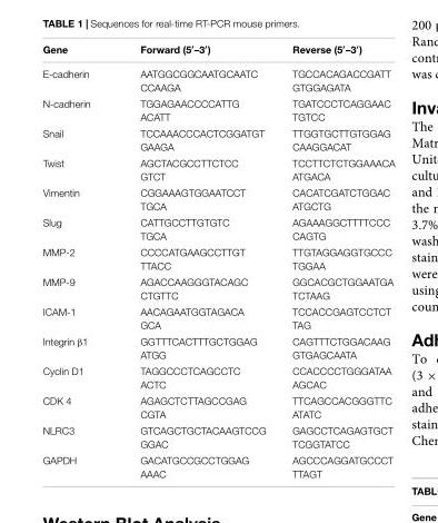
<table><thead><tr><td>Gene</td><td>Forward (5′–3′)</td><td>Reverse (5′–3′)</td></tr></thead><tbody><tr><td>E-cadherin</td><td>AATGGCGGCAATGCAATC CCAAGA</td><td>TGCCACAGACCGATT GTGGAGATA</td></tr><tr><td>N-cadherin</td><td>TGGAGAACCCCATTG ACATT</td><td>TGATCCCTCAGGAAC TGTCC</td></tr><tr><td>Snail</td><td>TCCAAACCCACTCGGATGT GAAGA</td><td>TTGGTGCTTGTGGAG CAAGGACAT</td></tr><tr><td>Twist</td><td>AGCTACGCCTTCTCC GTCT</td><td>TCCTTCTCTGGAAACA ATGACA</td></tr><tr><td>Vimentin</td><td>CGGAAAGTGGAATCCT TGCA</td><td>CACATCGATCTGGAC ATGCTG</td></tr><tr><td>Slug</td><td>CATTGCCTTGTGTC TGCA</td><td>AGAAAGGCTTTTCCC CAGTG</td></tr><tr><td>MMP-2</td><td>CCCCATGAAGCCTTGT TTACC</td><td>TTGTAGGAGGTGCCC TGGAA</td></tr><tr><td>MMP-9</td><td>AGACCAAGGGTACAGC CTGTTC</td><td>GGCACGCTGGAATGA TCTAAG</td></tr><tr><td>ICAM-1</td><td>AACAGAATGGTAGACA GCA</td><td>TCCACCGAGTCCTCT TAG</td></tr><tr><td>Integrin β1</td><td>GGTTTCACTTTGCTGGAG ATGG</td><td>CAGTTTCTGGACAAG GTGAGCAATA</td></tr><tr><td>Cyclin D1</td><td>TAGGCCCTCAGCCTC ACTC</td><td>CCACCCCTGGGATAA AGCAC</td></tr><tr><td>CDK 4</td><td>AGAGCTCTTAGCCGAG CGTA</td><td>TTCAGCCACGGGTTC ATATC</td></tr><tr><td>NLRC3</td><td>GTCAGCTGCTACAAGTCCG GGAC</td><td>GAGCCTCAGAGTGCT TCGGTATCC</td></tr><tr><td>GAPDH</td><td>GACATGCCGCCTGGAG AAAC</td><td>AGCCCAGGATGCCCT TTAGT</td></tr></tbody></table>